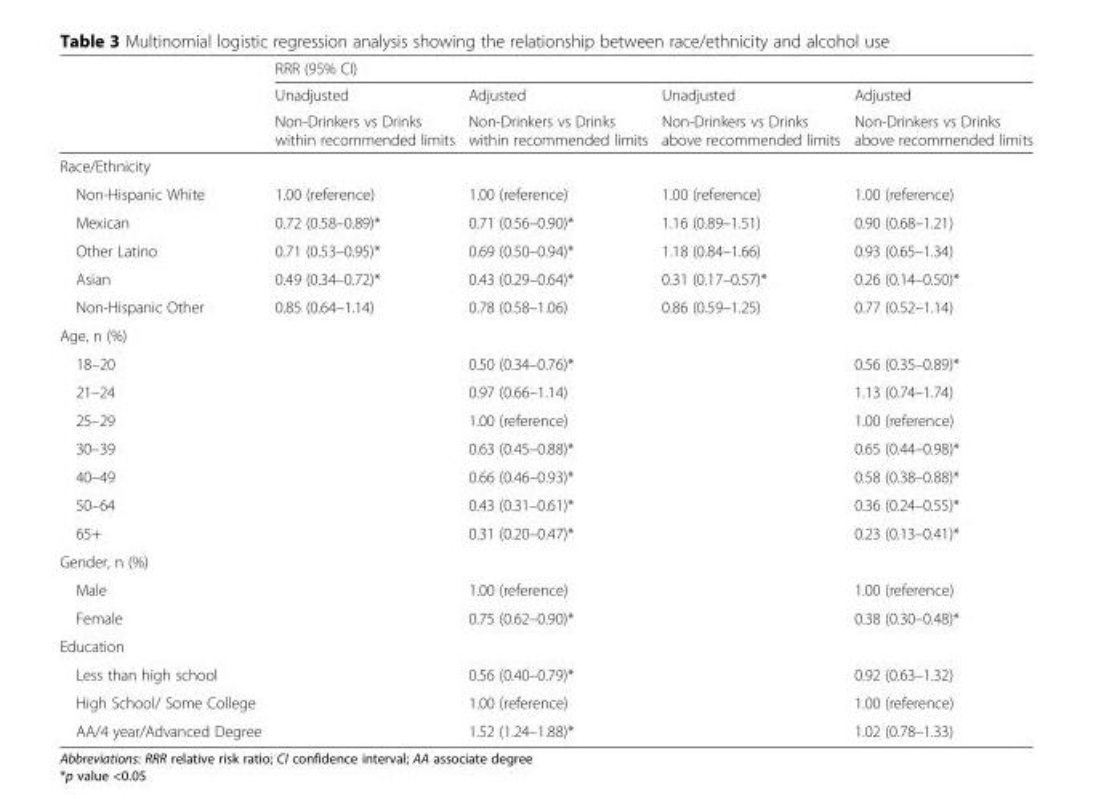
<table><thead><tr><td rowspan="3"></td><td colspan="4">RRR (95% CI)</td></tr><tr><td rowspan="2">Unadjusted Non-Drinkers vs Drinks within recommended limits</td><td rowspan="2">Adjusted Non-Drinkers vs Drinks within recommended limits</td><td rowspan="2">Unadjusted Non-Drinkers vs Drinks above recommended limits</td><td rowspan="2">Adjusted Non-Drinkers vs Drinks above recommended limits</td></tr><tr></tr></thead><tbody><tr><td colspan="5">Race/Ethnicity</td></tr><tr><td>Non-Hispanic White</td><td>1.00 (reference)</td><td>1.00 (reference)</td><td>1.00 (reference)</td><td>1.00 (reference)</td></tr><tr><td>Mexican</td><td>0.72 (0.58–0.89)*</td><td>0.71 (0.56–0.90)*</td><td>1.16 (0.89–1.51)</td><td>0.90 (0.68–1.21)</td></tr><tr><td>Other Latino</td><td>0.71 (0.53–0.95)*</td><td>0.69 (0.50–0.94)*</td><td>1.18 (0.84–1.66)</td><td>0.93 (0.65–1.34)</td></tr><tr><td>Asian</td><td>0.49 (0.34–0.72)*</td><td>0.43 (0.29–0.64)*</td><td>0.31 (0.17–0.57)*</td><td>0.26 (0.14–0.50)*</td></tr><tr><td>Non-Hispanic Other</td><td>0.85 (0.64–1.14)</td><td>0.78 (0.58–1.06)</td><td>0.86 (0.59–1.25)</td><td>0.77 (0.52–1.14)</td></tr><tr><td colspan="5">Age, n (%)</td></tr><tr><td>18–20</td><td></td><td>0.50 (0.34–0.76)*</td><td></td><td>0.56 (0.35–0.89)*</td></tr><tr><td>21–24</td><td></td><td>0.97 (0.66–1.14)</td><td></td><td>1.13 (0.74–1.74)</td></tr><tr><td>25–29</td><td></td><td>1.00 (reference)</td><td></td><td>1.00 (reference)</td></tr><tr><td>30–39</td><td></td><td>0.63 (0.45–0.88)*</td><td></td><td>0.65 (0.44–0.98)*</td></tr><tr><td>40–49</td><td></td><td>0.66 (0.46–0.93)*</td><td></td><td>0.58 (0.38–0.88)*</td></tr><tr><td>50–64</td><td></td><td>0.43 (0.31–0.61)*</td><td></td><td>0.36 (0.24–0.55)*</td></tr><tr><td>65+</td><td></td><td>0.31 (0.20–0.47)*</td><td></td><td>0.23 (0.13–0.41)*</td></tr><tr><td colspan="5">Gender, n (%)</td></tr><tr><td>Male</td><td></td><td>1.00 (reference)</td><td></td><td>1.00 (reference)</td></tr><tr><td>Female</td><td></td><td>0.75 (0.62–0.90)*</td><td></td><td>0.38 (0.30–0.48)*</td></tr><tr><td colspan="5">Education</td></tr><tr><td>Less than high school</td><td></td><td>0.56 (0.40–0.79)*</td><td></td><td>0.92 (0.63–1.32)</td></tr><tr><td>High School/ Some College</td><td></td><td>1.00 (reference)</td><td></td><td>1.00 (reference)</td></tr><tr><td>AA/4 year/Advanced Degree</td><td></td><td>1.52 (1.24–1.88)*</td><td></td><td>1.02 (0.78–1.33)</td></tr></tbody></table>